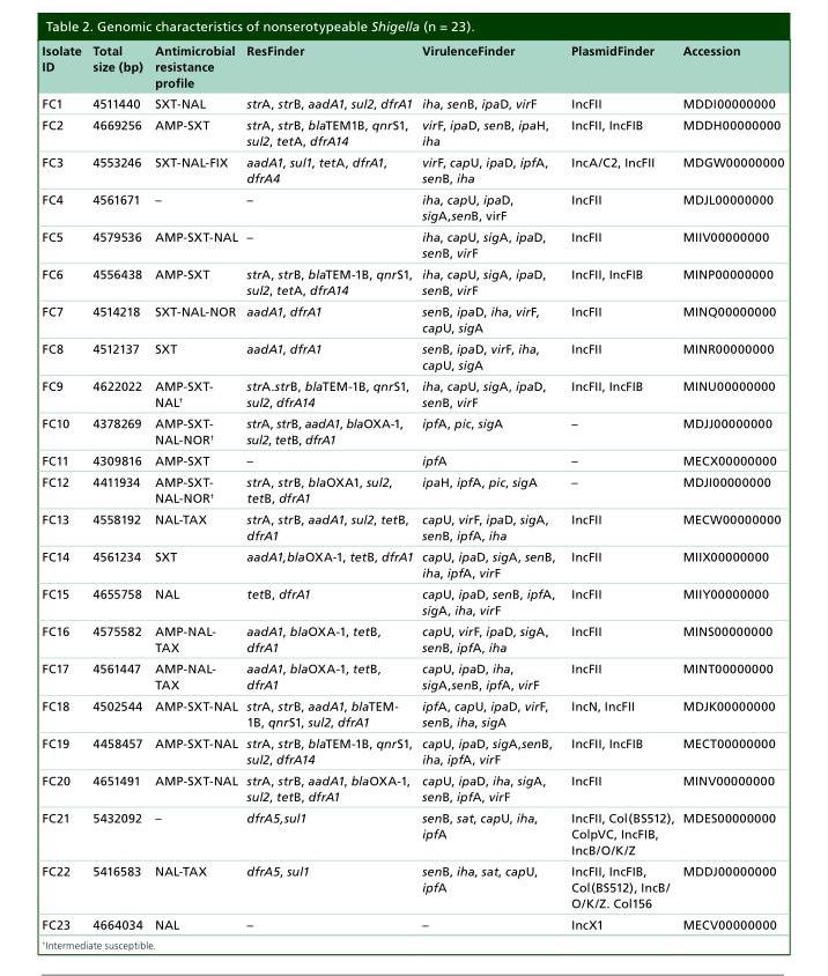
<table><thead><tr><td>Isolate ID</td><td>Total size (bp)</td><td>Antimicrobial resistance profile</td><td>ResFinder</td><td>VirulenceFinder</td><td>PlasmidFinder</td><td>Accession</td></tr></thead><tbody><tr><td>FC1</td><td>4511440</td><td>SXT-NAL</td><td>strA, strB, aadA1, sul2, dfrA1</td><td>iha, senB, ipaD, virF</td><td>IncFII</td><td>MDDI00000000</td></tr><tr><td>FC2</td><td>4669256</td><td>AMP-SXT</td><td>strA, strB, blaTEM1B, qnrS1, sul2, tetA, dfrA14</td><td>virF, ipaD, senB, ipaH, iha</td><td>IncFII, IncFIB</td><td>MDDH00000000</td></tr><tr><td>FC3</td><td>4553246</td><td>SXT-NAL-FIX</td><td>aadA1, sul1, tetA, dfrA1, dfrA4</td><td>virF, capU, ipaD, ipfA, senB, iha</td><td>IncA/C2, IncFII</td><td>MDGW00000000</td></tr><tr><td>FC4</td><td>4561671</td><td>–</td><td>–</td><td>iha, capU, ipaD, sigA,senB, virF</td><td>IncFII</td><td>MDJL00000000</td></tr><tr><td>FC5</td><td>4579536</td><td>AMP-SXT-NAL</td><td>–</td><td>iha, capU, sigA, ipaD, senB, virF</td><td>IncFII</td><td>MIIV00000000</td></tr><tr><td>FC6</td><td>4556438</td><td>AMP-SXT</td><td>strA, strB, blaTEM-1B, qnrS1, sul2, tetA, dfrA14</td><td>iha, capU, sigA, ipaD, senB, virF</td><td>IncFII, IncFIB</td><td>MINP00000000</td></tr><tr><td>FC7</td><td>4514218</td><td>SXT-NAL-NOR</td><td>aadA1, dfrA1</td><td>senB, ipaD, iha, virF, capU, sigA</td><td>IncFII</td><td>MINQ00000000</td></tr><tr><td>FC8</td><td>4512137</td><td>SXT</td><td>aadA1, dfrA1</td><td>senB, ipaD, virF, iha, capU, sigA</td><td>IncFII</td><td>MINR00000000</td></tr><tr><td>FC9</td><td>4622022</td><td>AMP-SXT- NAL<sup>†</sup></td><td>strA.strB, blaTEM-1B, qnrS1, sul2, dfrA14</td><td>iha, capU, sigA, ipaD, senB, virF</td><td>IncFII, IncFIB</td><td>MINU00000000</td></tr><tr><td>FC10</td><td>4378269</td><td>AMP-SXT- NAL-NOR<sup>†</sup></td><td>strA, strB, aadA1, blaOXA-1, sul2, tetB, dfrA1</td><td>ipfA, pic, sigA</td><td>–</td><td>MDJJ00000000</td></tr><tr><td>FC11</td><td>4309816</td><td>AMP-SXT</td><td>–</td><td>ipfA</td><td>–</td><td>MECX00000000</td></tr><tr><td>FC12</td><td>4411934</td><td>AMP-SXT- NAL-NOR<sup>†</sup></td><td>strA, strB, blaOXA1, sul2, tetB, dfrA1</td><td>ipaH, ipfA, pic, sigA</td><td>–</td><td>MDJI00000000</td></tr><tr><td>FC13</td><td>4558192</td><td>NAL-TAX</td><td>strA, strB, aadA1, sul2, tetB, dfrA1</td><td>capU, virF, ipaD, sigA, senB, ipfA, iha</td><td>IncFII</td><td>MECW00000000</td></tr><tr><td>FC14</td><td>4561234</td><td>SXT</td><td>aadA1,blaOXA-1, tetB, dfrA1</td><td>capU, ipaD, sigA, senB, iha, ipfA, virF</td><td>IncFII</td><td>MIIX00000000</td></tr><tr><td>FC15</td><td>4655758</td><td>NAL</td><td>tetB, dfrA1</td><td>capU, ipaD, senB, ipfA, sigA, iha, virF</td><td>IncFII</td><td>MIIY00000000</td></tr><tr><td>FC16</td><td>4575582</td><td>AMP-NAL- TAX</td><td>aadA1, blaOXA-1, tetB, dfrA1</td><td>capU, virF, ipaD, sigA, senB, ipfA, iha</td><td>IncFII</td><td>MINS00000000</td></tr><tr><td>FC17</td><td>4561447</td><td>AMP-NAL- TAX</td><td>aadA1, blaOXA-1, tetB, dfrA1</td><td>capU, ipaD, iha, sigA,senB, ipfA, virF</td><td>IncFII</td><td>MINT00000000</td></tr><tr><td>FC18</td><td>4502544</td><td>AMP-SXT-NAL</td><td>strA, strB, aadA1, blaTEM- 1B, qnrS1, sul2, dfrA1</td><td>ipfA, capU, ipaD, virF, senB, iha, sigA</td><td>IncN, IncFII</td><td>MDJK00000000</td></tr><tr><td>FC19</td><td>4458457</td><td>AMP-SXT-NAL</td><td>strA, strB, blaTEM-1B, qnrS1, sul2, dfrA14</td><td>capU, ipaD, sigA,senB, iha, ipfA, virF</td><td>IncFII, IncFIB</td><td>MECT00000000</td></tr><tr><td>FC20</td><td>4651491</td><td>AMP-SXT-NAL</td><td>strA, strB, aadA1, blaOXA-1, sul2, tetB, dfrA1</td><td>capU, ipaD, iha, sigA, senB, ipfA, virF</td><td>IncFII</td><td>MINV00000000</td></tr><tr><td>FC21</td><td>5432092</td><td>–</td><td>dfrA5,sul1</td><td>senB, sat, capU, iha, ipfA</td><td>IncFII, Col(BS512), ColpVC, IncFIB, IncB/O/K/Z</td><td>MDES00000000</td></tr><tr><td>FC22</td><td>5416583</td><td>NAL-TAX</td><td>dfrA5, sul1</td><td>senB, iha, sat, capU, ipfA</td><td>IncFII, IncFIB, Col(BS512), IncB/ O/K/Z. Col156</td><td>MDDJ00000000</td></tr><tr><td>FC23</td><td>4664034</td><td>NAL</td><td>–</td><td>–</td><td>IncX1</td><td>MECV00000000</td></tr></tbody></table>